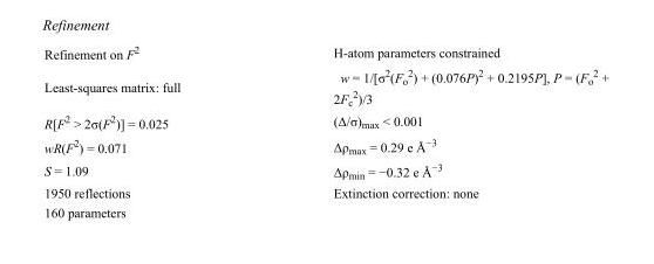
<table><tbody><tr><td>Refinement on F<sup>2</sup></td><td>H-atom parameters constrained</td></tr><tr><td>Least-squares matrix: full</td><td>w = 1/[σ<sup>2</sup>(F<sub>o</sub> <sup>2</sup>) + (0.076P)<sup>2</sup> + 0.2195P], P = (F<sub>o</sub> <sup>2</sup> + 2F<sub>c</sub> <sup>2</sup>)/3</td></tr><tr><td>R[F<sup>2</sup> &gt; 2σ(F<sup>2</sup>)] = 0.025</td><td>(Δ/σ)<sub>max</sub> &lt; 0.001</td></tr><tr><td>wR(F<sup>2</sup>) = 0.071</td><td>Δρ<sub>max</sub> = 0.29 e Å<sup>−3</sup></td></tr><tr><td>S = 1.09</td><td>Δρ<sub>min</sub> = −0.32 e Å<sup>−3</sup></td></tr><tr><td>1950 reflections</td><td>Extinction correction: none</td></tr><tr><td>160 parameters</td><td></td></tr></tbody></table>